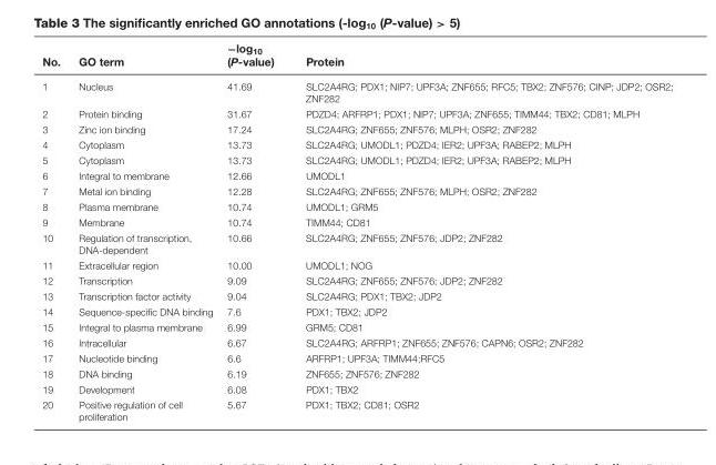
<table><thead><tr><td>No.</td><td>GO term</td><td>−log<sub>10</sub> (P-value)</td><td>Protein</td></tr></thead><tbody><tr><td>1</td><td>Nucleus</td><td>41.69</td><td>SLC2A4RG; PDX1; NIP7; UPF3A; ZNF655; RFC5; TBX2; ZNF576; CINP; JDP2; OSR2; ZNF282</td></tr><tr><td>2</td><td>Protein binding</td><td>31.67</td><td>PDZD4; ARFRP1; PDX1; NIP7; UPF3A; ZNF655; TIMM44; TBX2; CD81; MLPH</td></tr><tr><td>3</td><td>Zinc ion binding</td><td>17.24</td><td>SLC2A4RG; ZNF655; ZNF576; MLPH; OSR2; ZNF282</td></tr><tr><td>4</td><td>Cytoplasm</td><td>13.73</td><td>SLC2A4RG; UMODL1; PDZD4; IER2; UPF3A; RABEP2; MLPH</td></tr><tr><td>5</td><td>Cytoplasm</td><td>13.73</td><td>SLC2A4RG; UMODL1; PDZD4; IER2; UPF3A; RABEP2; MLPH</td></tr><tr><td>6</td><td>Integral to membrane</td><td>12.66</td><td>UMODL1</td></tr><tr><td>7</td><td>Metal ion binding</td><td>12.28</td><td>SLC2A4RG; ZNF655; ZNF576; MLPH; OSR2; ZNF282</td></tr><tr><td>8</td><td>Plasma membrane</td><td>10.74</td><td>UMODL1; GRM5</td></tr><tr><td>9</td><td>Membrane</td><td>10.74</td><td>TIMM44; CD81</td></tr><tr><td>10</td><td>Regulation of transcription, DNA-dependent</td><td>10.66</td><td>SLC2A4RG; ZNF655; ZNF576; JDP2; ZNF282</td></tr><tr><td>11</td><td>Extracellular region</td><td>10.00</td><td>UMODL1; NOG</td></tr><tr><td>12</td><td>Transcription</td><td>9.09</td><td>SLC2A4RG; ZNF655; ZNF576; JDP2; ZNF282</td></tr><tr><td>13</td><td>Transcription factor activity</td><td>9.04</td><td>SLC2A4RG; PDX1; TBX2; JDP2</td></tr><tr><td>14</td><td>Sequence-specific DNA binding</td><td>7.6</td><td>PDX1; TBX2; JDP2</td></tr><tr><td>15</td><td>Integral to plasma membrane</td><td>6.99</td><td>GRM5; CD81</td></tr><tr><td>16</td><td>Intracellular</td><td>6.67</td><td>SLC2A4RG; ARFRP1; ZNF655; ZNF576; CAPN6; OSR2; ZNF282</td></tr><tr><td>17</td><td>Nucleotide binding</td><td>6.6</td><td>ARFRP1; UPF3A; TIMM44;RFC5</td></tr><tr><td>18</td><td>DNA binding</td><td>6.19</td><td>ZNF655; ZNF576; ZNF282</td></tr><tr><td>19</td><td>Development</td><td>6.08</td><td>PDX1; TBX2</td></tr><tr><td>20</td><td>Positive regulation of cell proliferation</td><td>5.67</td><td>PDX1; TBX2; CD81; OSR2</td></tr></tbody></table>